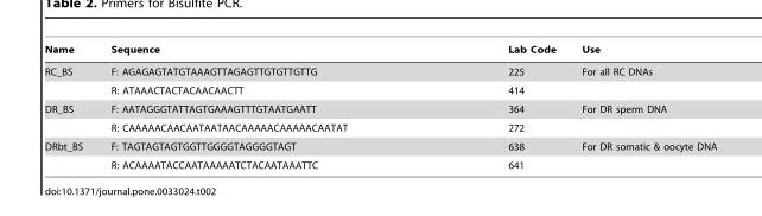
<table><thead><tr><td>Name</td><td>Sequence</td><td>Lab Code</td><td>Use</td></tr></thead><tbody><tr><td rowspan="2">RC_BS</td><td>F: AGAGAGTATGTAAAGTTAGAGTTGTGTTGTTG</td><td>225</td><td>For all RC DNAs</td></tr><tr><td>R: ATAAACTACTACAACAACTT</td><td>414</td><td></td></tr><tr><td rowspan="2">DR_BS</td><td>F: AATAGGGTATTAGTGAAAGTTTGTAATGAATT</td><td>364</td><td>For DR sperm DNA</td></tr><tr><td>R: CAAAAACAACAATAATAACAAAAACAAAAACAATAT</td><td>272</td><td></td></tr><tr><td rowspan="2">DRbt_BS</td><td>F: TAGTAGTAGTGGTTGGGGTAGGGGTAGT</td><td>638</td><td>For DR somatic &amp; oocyte DNA</td></tr><tr><td>R: ACAAAATACCAATAAAAATCTACAATAAATTC</td><td>641</td><td></td></tr></tbody></table>